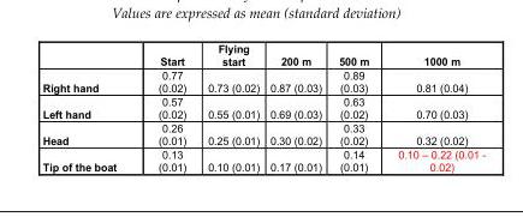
<table><thead><tr><td></td><td>Start</td><td>Flying start</td><td>200 m</td><td>500 m</td><td>1000 m</td></tr></thead><tbody><tr><td>Right hand</td><td>0.77 (0.02)</td><td>0.73 (0.02)</td><td>0.87 (0.03)</td><td>0.89 (0.03)</td><td>0.81 (0.04)</td></tr><tr><td>Left hand</td><td>0.57 (0.02)</td><td>0.55 (0.01)</td><td>0.69 (0.03)</td><td>0.63 (0.02)</td><td>0.70 (0.03)</td></tr><tr><td>Head</td><td>0.26 (0.01)</td><td>0.25 (0.01)</td><td>0.30 (0.02)</td><td>0.33 (0.02)</td><td>0.32 (0.02)</td></tr><tr><td>Tip of the boat</td><td>0.13 (0.01)</td><td>0.10 (0.01)</td><td>0.17 (0.01)</td><td>0.14 (0.01)</td><td>0.10 – 0.22 (0.01 0.02)</td></tr></tbody></table>